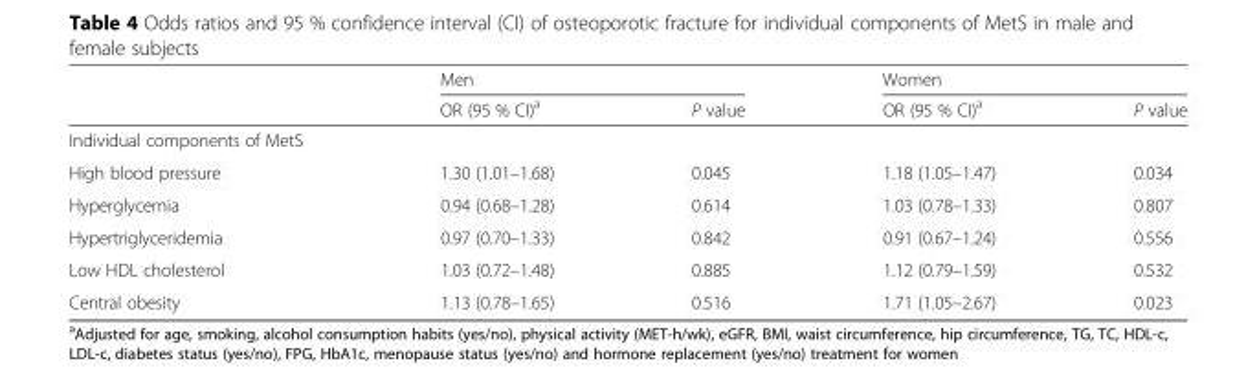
<table><thead><tr><td rowspan="2"></td><td colspan="2">Men</td><td colspan="2">Women</td></tr><tr><td>OR (95 % CI)<sup>a</sup></td><td>P value</td><td>OR (95 % CI)<sup>a</sup></td><td>P value</td></tr></thead><tbody><tr><td colspan="5">Individual components of MetS</td></tr><tr><td>High blood pressure</td><td>1.30 (1.01–1.68)</td><td>0.045</td><td>1.18 (1.05–1.47)</td><td>0.034</td></tr><tr><td>Hyperglycemia</td><td>0.94 (0.68–1.28)</td><td>0.614</td><td>1.03 (0.78–1.33)</td><td>0.807</td></tr><tr><td>Hypertriglyceridemia</td><td>0.97 (0.70–1.33)</td><td>0.842</td><td>0.91 (0.67–1.24)</td><td>0.556</td></tr><tr><td>Low HDL cholesterol</td><td>1.03 (0.72–1.48)</td><td>0.885</td><td>1.12 (0.79–1.59)</td><td>0.532</td></tr><tr><td>Central obesity</td><td>1.13 (0.78–1.65)</td><td>0.516</td><td>1.71 (1.05–2.67)</td><td>0.023</td></tr></tbody></table>